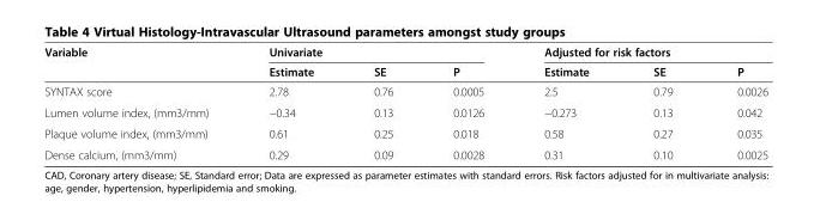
<table><thead><tr><td rowspan="2">Variable</td><td colspan="3">Univariate</td><td colspan="3">Adjusted for risk factors</td></tr><tr><td>Estimate</td><td>SE</td><td>P</td><td>Estimate</td><td>SE</td><td>P</td></tr></thead><tbody><tr><td>SYNTAX score</td><td>2.78</td><td>0.76</td><td>0.0005</td><td>2.5</td><td>0.79</td><td>0.0026</td></tr><tr><td>Lumen volume index, (mm3/mm)</td><td>−0.34</td><td>0.13</td><td>0.0126</td><td>−0.273</td><td>0.13</td><td>0.042</td></tr><tr><td>Plaque volume index, (mm3/mm)</td><td>0.61</td><td>0.25</td><td>0.018</td><td>0.58</td><td>0.27</td><td>0.035</td></tr><tr><td>Dense calcium, (mm3/mm)</td><td>0.29</td><td>0.09</td><td>0.0028</td><td>0.31</td><td>0.10</td><td>0.0025</td></tr></tbody></table>